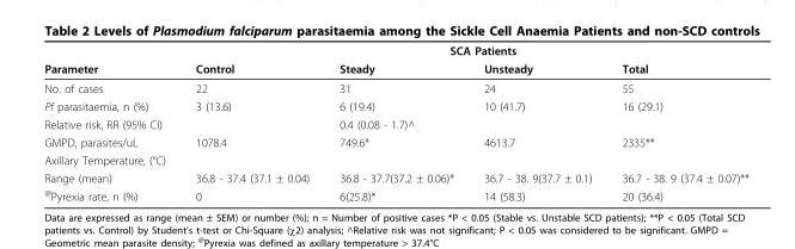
<table><thead><tr><td rowspan="2">Parameter</td><td colspan="4">SCA Patients</td></tr><tr><td>Control</td><td>Steady</td><td>Unsteady</td><td>Total</td></tr></thead><tbody><tr><td>No. of cases</td><td>22</td><td>31</td><td>24</td><td>55</td></tr><tr><td>Pf parasitaemia, n (%)</td><td>3 (13.6)</td><td>6 (19.4)</td><td>10 (41.7)</td><td>16 (29.1)</td></tr><tr><td>Relative risk, RR (95% CI)</td><td></td><td>0.4 (0.08 - 1.7)^</td><td></td><td></td></tr><tr><td>GMPD, parasites/uL</td><td>1078.4</td><td>749.6*</td><td>4613.7</td><td>2335**</td></tr><tr><td colspan="5">Axillary Temperature, (°C)</td></tr><tr><td>Range (mean)</td><td>36.8 - 37.4 (37.1 ± 0.04)</td><td>36.8 - 37.7(37.2 ± 0.06)*</td><td>36.7 - 38. 9(37.7 ± 0.1)</td><td>36.7 - 38. 9 (37.4 ± 0.07)**</td></tr><tr><td><sup>@</sup>Pyrexia rate, n (%)</td><td>0</td><td>6(25.8)*</td><td>14 (58.3)</td><td>20 (36.4)</td></tr></tbody></table>